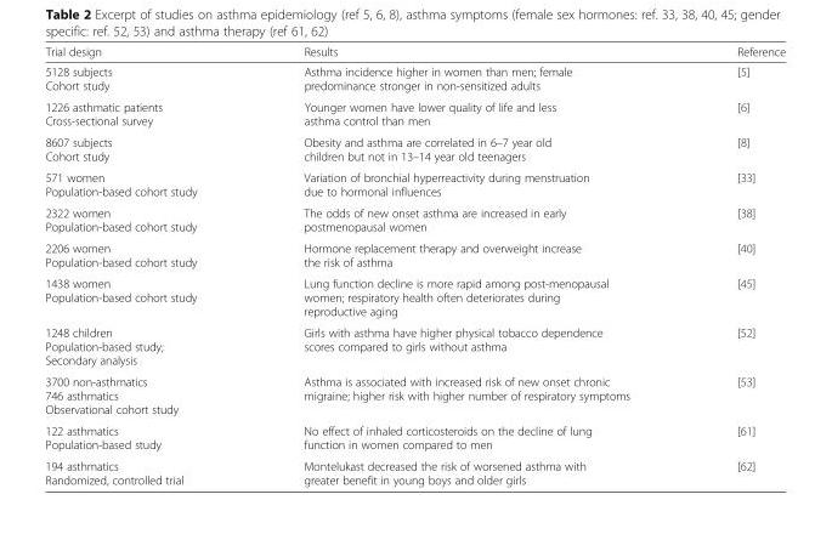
<table><thead><tr><td>Trial design</td><td>Results</td><td>Reference</td></tr></thead><tbody><tr><td>5128 subjects Cohort study</td><td>Asthma incidence higher in women than men; female predominance stronger in non-sensitized adults</td><td>[5]</td></tr><tr><td>1226 asthmatic patients Cross-sectional survey</td><td>Younger women have lower quality of life and less asthma control than men</td><td>[6]</td></tr><tr><td>8607 subjects Cohort study</td><td>Obesity and asthma are correlated in 6–7 year old children but not in 13–14 year old teenagers</td><td>[8]</td></tr><tr><td>571 women Population-based cohort study</td><td>Variation of bronchial hyperreactivity during menstruation due to hormonal influences</td><td>[33]</td></tr><tr><td>2322 women Population-based cohort study</td><td>The odds of new onset asthma are increased in early postmenopausal women</td><td>[38]</td></tr><tr><td>2206 women Population-based cohort study</td><td>Hormone replacement therapy and overweight increase the risk of asthma</td><td>[40]</td></tr><tr><td>1438 women Population-based cohort study</td><td>Lung function decline is more rapid among post-menopausal women; respiratory health often deteriorates during reproductive aging</td><td>[45]</td></tr><tr><td>1248 children Population-based study; Secondary analysis</td><td>Girls with asthma have higher physical tobacco dependence scores compared to girls without asthma</td><td>[52]</td></tr><tr><td>3700 non-asthmatics 746 asthmatics Observational cohort study</td><td>Asthma is associated with increased risk of new onset chronic migraine; higher risk with higher number of respiratory symptoms</td><td>[53]</td></tr><tr><td>122 asthmatics Population-based study</td><td>No effect of inhaled corticosteroids on the decline of lung function in women compared to men</td><td>[61]</td></tr><tr><td>194 asthmatics Randomized, controlled trial</td><td>Montelukast decreased the risk of worsened asthma with greater benefit in young boys and older girls</td><td>[62]</td></tr></tbody></table>